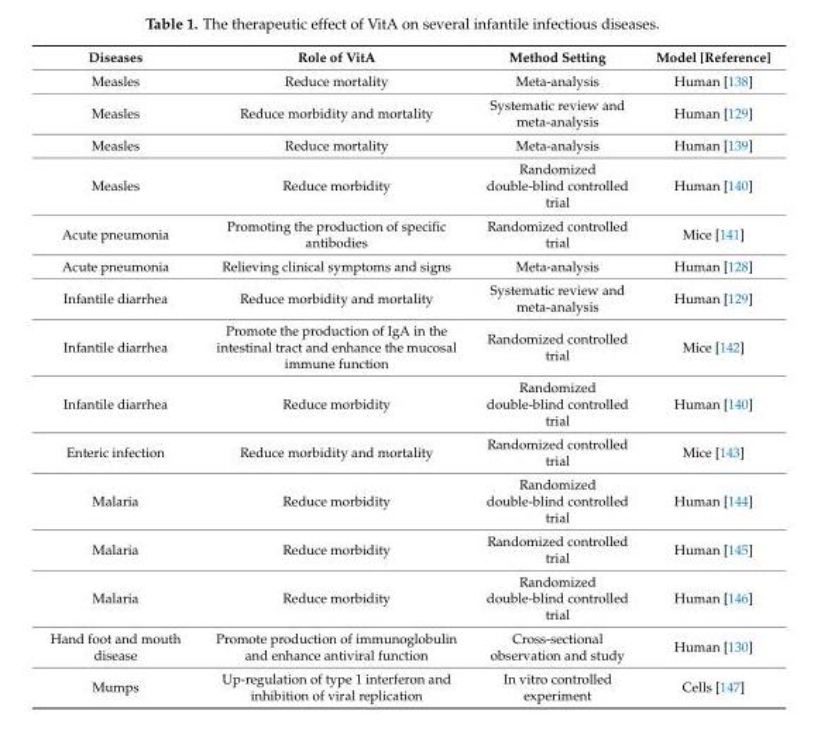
<table><thead><tr><td>Diseases</td><td>Role of VitA</td><td>Method Setting</td><td>Model [Reference]</td></tr></thead><tbody><tr><td>Measles</td><td>Reduce mortality</td><td>Meta-analysis</td><td>Human [138]</td></tr><tr><td>Measles</td><td>Reduce morbidity and mortality</td><td>Systematic review and meta-analysis</td><td>Human [129]</td></tr><tr><td>Measles</td><td>Reduce mortality</td><td>Meta-analysis</td><td>Human [139]</td></tr><tr><td>Measles</td><td>Reduce morbidity</td><td>Randomized double-blind controlled trial</td><td>Human [140]</td></tr><tr><td>Acute pneumonia</td><td>Promoting the production of specific antibodies</td><td>Randomized controlled trial</td><td>Mice [141]</td></tr><tr><td>Acute pneumonia</td><td>Relieving clinical symptoms and signs</td><td>Meta-analysis</td><td>Human [128]</td></tr><tr><td>Infantile diarrhea</td><td>Reduce morbidity and mortality</td><td>Systematic review and meta-analysis</td><td>Human [129]</td></tr><tr><td>Infantile diarrhea</td><td>Promote the production of IgA in the intestinal tract and enhance the mucosal immune function</td><td>Randomized controlled trial</td><td>Mice [142]</td></tr><tr><td>Infantile diarrhea</td><td>Reduce morbidity</td><td>Randomized double-blind controlled trial</td><td>Human [140]</td></tr><tr><td>Enteric infection</td><td>Reduce morbidity and mortality</td><td>Randomized controlled trial</td><td>Mice [143]</td></tr><tr><td>Malaria</td><td>Reduce morbidity</td><td>Randomized double-blind controlled trial</td><td>Human [144]</td></tr><tr><td>Malaria</td><td>Reduce morbidity</td><td>Randomized controlled trial</td><td>Human [145]</td></tr><tr><td>Malaria</td><td>Reduce morbidity</td><td>Randomized double-blind controlled trial</td><td>Human [146]</td></tr><tr><td>Hand foot and mouth disease</td><td>Promote production of immunoglobulin and enhance antiviral function</td><td>Cross-sectional observation and study</td><td>Human [130]</td></tr><tr><td>Mumps</td><td>Up-regulation of type 1 interferon and inhibition of viral replication</td><td>In vitro controlled experiment</td><td>Cells [147]</td></tr></tbody></table>